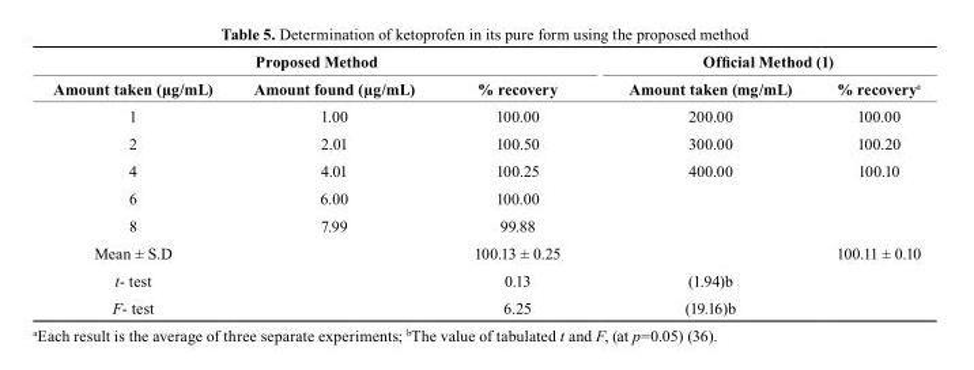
<table><thead><tr><td colspan="3">Proposed Method</td><td colspan="2">Official Method (1)</td></tr><tr><td>Amount taken (µg/mL)</td><td>Amount found (µg/mL)</td><td>% recovery</td><td>Amount taken (mg/mL)</td><td>% recovery<sup>a</sup></td></tr></thead><tbody><tr><td>1</td><td>1.00</td><td>100.00</td><td>200.00</td><td>100.00</td></tr><tr><td>2</td><td>2.01</td><td>100.50</td><td>300.00</td><td>100.20</td></tr><tr><td>4</td><td>4.01</td><td>100.25</td><td>400.00</td><td>100.10</td></tr><tr><td>6</td><td>6.00</td><td>100.00</td><td></td><td></td></tr><tr><td>8</td><td>7.99</td><td>99.88</td><td></td><td></td></tr><tr><td>Mean ± S.D</td><td></td><td>100.13 ± 0.25</td><td></td><td>100.11 ± 0.10</td></tr><tr><td>t- test</td><td></td><td>0.13</td><td>(1.94)<sup>b</sup></td><td></td></tr><tr><td>F- test</td><td></td><td>6.25</td><td>(19.16)<sup>b</sup></td><td></td></tr></tbody></table>